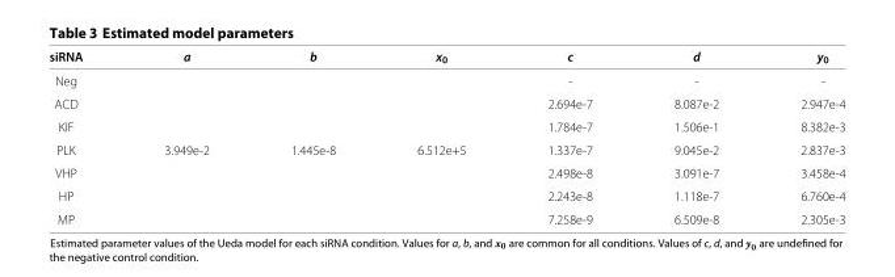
<table><thead><tr><td>siRNA</td><td>a</td><td>b</td><td>x<sub>0</sub></td><td>c</td><td>d</td><td>y<sub>0</sub></td></tr></thead><tbody><tr><td>Neg</td><td></td><td></td><td></td><td>-</td><td>-</td><td>-</td></tr><tr><td>ACD</td><td></td><td></td><td></td><td>2.694e-7</td><td>8.087e-2</td><td>2.947e-4</td></tr><tr><td>KIF</td><td></td><td></td><td></td><td>1.784e-7</td><td>1.506e-1</td><td>8.382e-3</td></tr><tr><td>PLK</td><td>3.949e-2</td><td>1.445e-8</td><td>6.512e+5</td><td>1.337e-7</td><td>9.045e-2</td><td>2.837e-3</td></tr><tr><td>VHP</td><td></td><td></td><td></td><td>2.498e-8</td><td>3.091e-7</td><td>3.458e-4</td></tr><tr><td>HP</td><td></td><td></td><td></td><td>2.243e-8</td><td>1.118e-7</td><td>6.760e-4</td></tr><tr><td>MP</td><td></td><td></td><td></td><td>7.258e-9</td><td>6.509e-8</td><td>2.305e-3</td></tr></tbody></table>